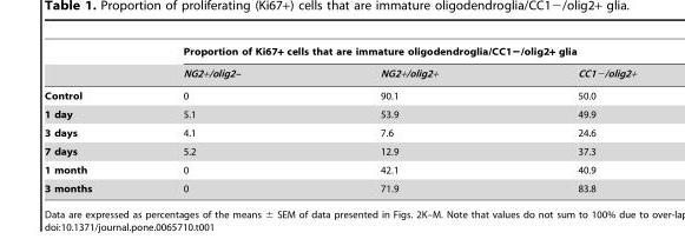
<table><thead><tr><td rowspan="2"></td><td colspan="3">Proportion of Ki67+ cells that are immature oligodendroglia/CC1−/olig2+ glia</td></tr><tr><td>NG2+/olig2–</td><td>NG2+/olig2+</td><td>CC1−/olig2+</td></tr></thead><tbody><tr><td>Control</td><td>0</td><td>90.1</td><td>50.0</td></tr><tr><td>1 day</td><td>5.1</td><td>53.9</td><td>49.9</td></tr><tr><td>3 days</td><td>4.1</td><td>7.6</td><td>24.6</td></tr><tr><td>7 days</td><td>5.2</td><td>12.9</td><td>37.3</td></tr><tr><td>1 month</td><td>0</td><td>42.1</td><td>40.9</td></tr><tr><td>3 months</td><td>0</td><td>71.9</td><td>83.8</td></tr></tbody></table>